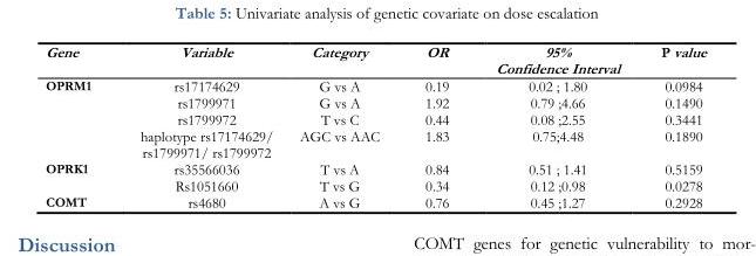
<table><thead><tr><td>Gene</td><td>Variable</td><td>Category</td><td>OR</td><td>95% Confidence Interval</td><td>P value</td></tr></thead><tbody><tr><td rowspan="4">OPRM1</td><td>rs17174629</td><td>G vs A</td><td>0.19</td><td>0.02 ; 1.80</td><td>0.0984</td></tr><tr><td>rs1799971</td><td>G vs A</td><td>1.92</td><td>0.79 ;4.66</td><td>0.1490</td></tr><tr><td>rs1799972</td><td>T vs C</td><td>0.44</td><td>0.08 ;2.55</td><td>0.3441</td></tr><tr><td>haplotype rs17174629/ rs1799971/ rs1799972</td><td>AGC vs AAC</td><td>1.83</td><td>0.75;4.48</td><td>0.1890</td></tr><tr><td rowspan="2">OPRK1</td><td>rs35566036</td><td>T vs A</td><td>0.84</td><td>0.51 ; 1.41</td><td>0.5159</td></tr><tr><td>Rs1051660</td><td>T vs G</td><td>0.34</td><td>0.12 ;0.98</td><td>0.0278</td></tr><tr><td>COMT</td><td>rs4680</td><td>A vs G</td><td>0.76</td><td>0.45 ;1.27</td><td>0.2928</td></tr></tbody></table>